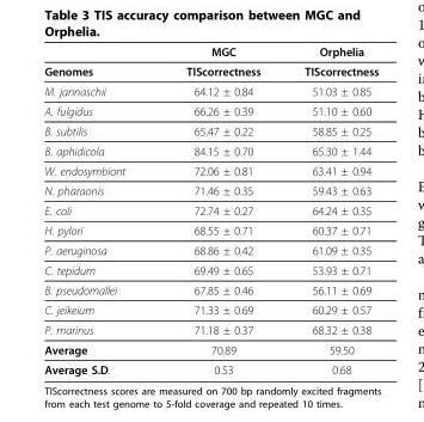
<table><thead><tr><td></td><td>MGC</td><td>Orphelia</td></tr></thead><tbody><tr><td>Genomes</td><td>TIScorrectness</td><td>TIScorrectness</td></tr><tr><td>M. jannaschii</td><td>64.12 ± 0.84</td><td>51.03 ± 0.85</td></tr><tr><td>A. fulgidus</td><td>66.26 ± 0.39</td><td>51.10 ± 0.60</td></tr><tr><td>B. subtilis</td><td>65.47 ± 0.22</td><td>58.85 ± 0.25</td></tr><tr><td>B. aphidicola</td><td>84.15 ± 0.70</td><td>65.30 ± 1.44</td></tr><tr><td>W. endosymbiont</td><td>72.06 ± 0.81</td><td>63.41 ± 0.94</td></tr><tr><td>N. pharaonis</td><td>71.46 ± 0.35</td><td>59.43 ± 0.63</td></tr><tr><td>E. coli</td><td>72.74 ± 0.27</td><td>64.24 ± 0.35</td></tr><tr><td>H. pylori</td><td>68.55 ± 0.71</td><td>60.37 ± 0.71</td></tr><tr><td>P. aeruginosa</td><td>68.86 ± 0.42</td><td>61.09 ± 0.35</td></tr><tr><td>C. tepidum</td><td>69.49 ± 0.65</td><td>53.93 ± 0.71</td></tr><tr><td>B. pseudomallei</td><td>67.85 ± 0.46</td><td>56.11 ± 0.69</td></tr><tr><td>C. jeikeium</td><td>71.33 ± 0.69</td><td>60.29 ± 0.57</td></tr><tr><td>P. marinus</td><td>71.18 ± 0.37</td><td>68.32 ± 0.38</td></tr><tr><td>Average</td><td>70.89</td><td>59.50</td></tr><tr><td>Average S.D.</td><td>0.53</td><td>0.68</td></tr></tbody></table>